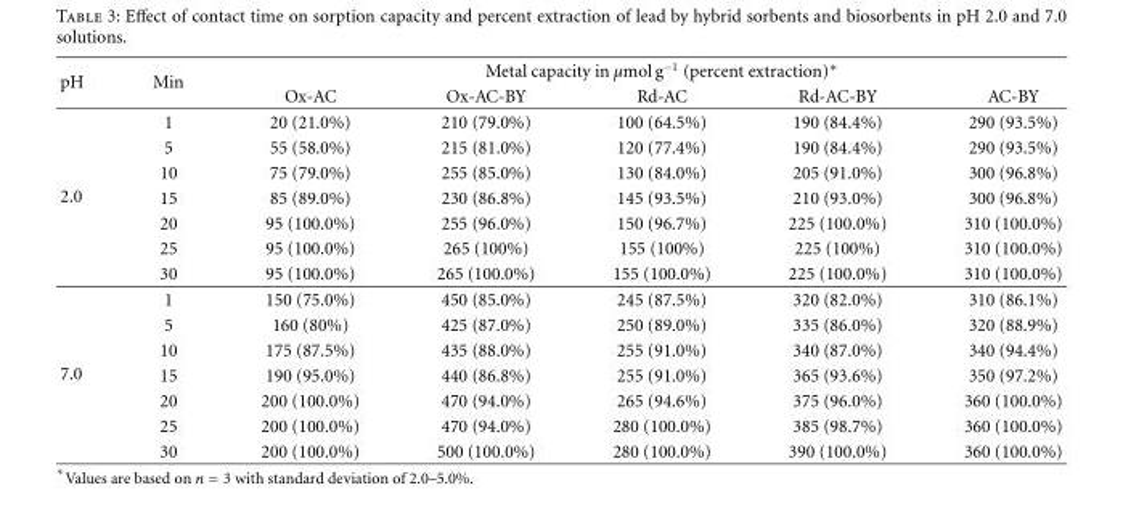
<table><thead><tr><td rowspan="2">pH</td><td rowspan="2">Min</td><td colspan="5">Metal capacity in μmol g−1 (percent extraction)∗</td></tr><tr><td>Ox-AC</td><td>Ox-AC-BY</td><td>Rd-AC</td><td>Rd-AC-BY</td><td>AC-BY</td></tr></thead><tbody><tr><td rowspan="7">2.0</td><td>1</td><td>20 (21.0%)</td><td>210 (79.0%)</td><td>100 (64.5%)</td><td>190 (84.4%)</td><td>290 (93.5%)</td></tr><tr><td>5</td><td>55 (58.0%)</td><td>215 (81.0%)</td><td>120 (77.4%)</td><td>190 (84.4%)</td><td>290 (93.5%)</td></tr><tr><td>10</td><td>75 (79.0%)</td><td>255 (85.0%)</td><td>130 (84.0%)</td><td>205 (91.0%)</td><td>300 (96.8%)</td></tr><tr><td>15</td><td>85 (89.0%)</td><td>230 (86.8%)</td><td>145 (93.5%)</td><td>210 (93.0%)</td><td>300 (96.8%)</td></tr><tr><td>20</td><td>95 (100.0%)</td><td>255 (96.0%)</td><td>150 (96.7%)</td><td>225 (100.0%)</td><td>310 (100.0%)</td></tr><tr><td>25</td><td>95 (100.0%)</td><td>265 (100%)</td><td>155 (100%)</td><td>225 (100%)</td><td>310 (100.0%)</td></tr><tr><td>30</td><td>95 (100.0%)</td><td>265 (100.0%)</td><td>155 (100.0%)</td><td>225 (100.0%)</td><td>310 (100.0%)</td></tr><tr><td rowspan="7">7.0</td><td>1</td><td>150 (75.0%)</td><td>450 (85.0%)</td><td>245 (87.5%)</td><td>320 (82.0%)</td><td>310 (86.1%)</td></tr><tr><td>5</td><td>160 (80%)</td><td>425 (87.0%)</td><td>250 (89.0%)</td><td>335 (86.0%)</td><td>320 (88.9%)</td></tr><tr><td>10</td><td>175 (87.5%)</td><td>435 (88.0%)</td><td>255 (91.0%)</td><td>340 (87.0%)</td><td>340 (94.4%)</td></tr><tr><td>15</td><td>190 (95.0%)</td><td>440 (86.8%)</td><td>255 (91.0%)</td><td>365 (93.6%)</td><td>350 (97.2%)</td></tr><tr><td>20</td><td>200 (100.0%)</td><td>470 (94.0%)</td><td>265 (94.6%)</td><td>375 (96.0%)</td><td>360 (100.0%)</td></tr><tr><td>25</td><td>200 (100.0%)</td><td>470 (94.0%)</td><td>280 (100.0%)</td><td>385 (98.7%)</td><td>360 (100.0%)</td></tr><tr><td>30</td><td>200 (100.0%)</td><td>500 (100.0%)</td><td>280 (100.0%)</td><td>390 (100.0%)</td><td>360 (100.0%)</td></tr></tbody></table>